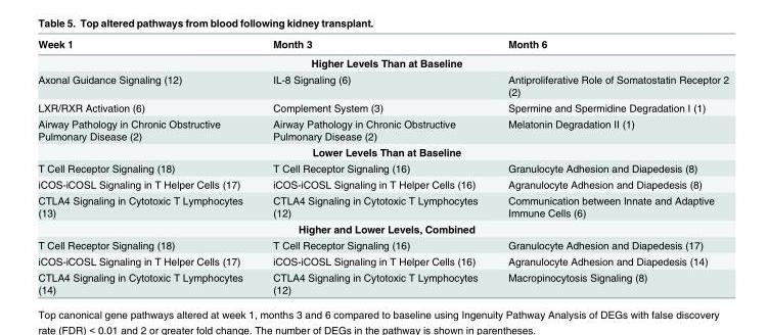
<table><thead><tr><td>Week 1</td><td>Month 3</td><td>Month 6</td></tr></thead><tbody><tr><td colspan="3">Higher Levels Than at Baseline</td></tr><tr><td>Axonal Guidance Signaling (12)</td><td>IL-8 Signaling (6)</td><td>Antiproliferative Role of Somatostatin Receptor 2 (2)</td></tr><tr><td>LXR/RXR Activation (6)</td><td>Complement System (3)</td><td>Spermine and Spermidine Degradation I (1)</td></tr><tr><td>Airway Pathology in Chronic Obstructive Pulmonary Disease (2)</td><td>Airway Pathology in Chronic Obstructive Pulmonary Disease (2)</td><td>Melatonin Degradation II (1)</td></tr><tr><td colspan="3">Lower Levels Than at Baseline</td></tr><tr><td>T Cell Receptor Signaling (18)</td><td>T Cell Receptor Signaling (16)</td><td>Granulocyte Adhesion and Diapedesis (8)</td></tr><tr><td>iCOS-iCOSL Signaling in T Helper Cells (17)</td><td>iCOS-iCOSL Signaling in T Helper Cells (16)</td><td>Agranulocyte Adhesion and Diapedesis (8)</td></tr><tr><td>CTLA4 Signaling in Cytotoxic T Lymphocytes (13)</td><td>CTLA4 Signaling in Cytotoxic T Lymphocytes (12)</td><td>Communication between Innate and Adaptive Immune Cells (6)</td></tr><tr><td colspan="3">Higher and Lower Levels, Combined</td></tr><tr><td>T Cell Receptor Signaling (18)</td><td>T Cell Receptor Signaling (16)</td><td>Granulocyte Adhesion and Diapedesis (17)</td></tr><tr><td>iCOS-iCOSL Signaling in T Helper Cells (17)</td><td>iCOS-iCOSL Signaling in T Helper Cells (16)</td><td>Agranulocyte Adhesion and Diapedesis (14)</td></tr><tr><td>CTLA4 Signaling in Cytotoxic T Lymphocytes (14)</td><td>CTLA4 Signaling in Cytotoxic T Lymphocytes (12)</td><td>Macropinocytosis Signaling (8)</td></tr></tbody></table>